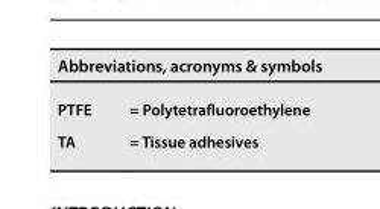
<table><thead><tr><td colspan="2">Abbreviations, acronyms &amp; symbols</td></tr><tr><td>PTFE</td><td>= Polytetrafluoroethylene</td></tr></thead><tbody><tr><td>TA</td><td>= Tissue adhesives</td></tr></tbody></table>